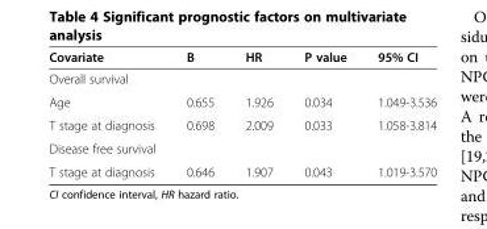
<table><thead><tr><td>Covariate</td><td>B</td><td>HR</td><td>P value</td><td>95% CI</td></tr></thead><tbody><tr><td colspan="5">Overall survival</td></tr><tr><td>Age</td><td>0.655</td><td>1.926</td><td>0.034</td><td>1.049-3.536</td></tr><tr><td>T stage at diagnosis</td><td>0.698</td><td>2.009</td><td>0.033</td><td>1.058-3.814</td></tr><tr><td colspan="5">Disease free survival</td></tr><tr><td>T stage at diagnosis</td><td>0.646</td><td>1.907</td><td>0.043</td><td>1.019-3.570</td></tr></tbody></table>